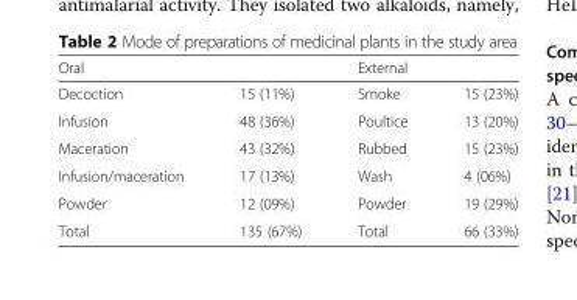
<table><thead><tr><td colspan="2">Oral</td><td colspan="2">External</td></tr><tr><td>Decoction</td><td>15 (11%)</td><td>Smoke</td><td>15 (23%)</td></tr></thead><tbody><tr><td>Infusion</td><td>48 (36%)</td><td>Poultice</td><td>13 (20%)</td></tr><tr><td>Maceration</td><td>43 (32%)</td><td>Rubbed</td><td>15 (23%)</td></tr><tr><td>Infusion/maceration</td><td>17 (13%)</td><td>Wash</td><td>4 (06%)</td></tr><tr><td>Powder</td><td>12 (09%)</td><td>Powder</td><td>19 (29%)</td></tr><tr><td>Total</td><td>135 (67%)</td><td>Total</td><td>66 (33%)</td></tr></tbody></table>